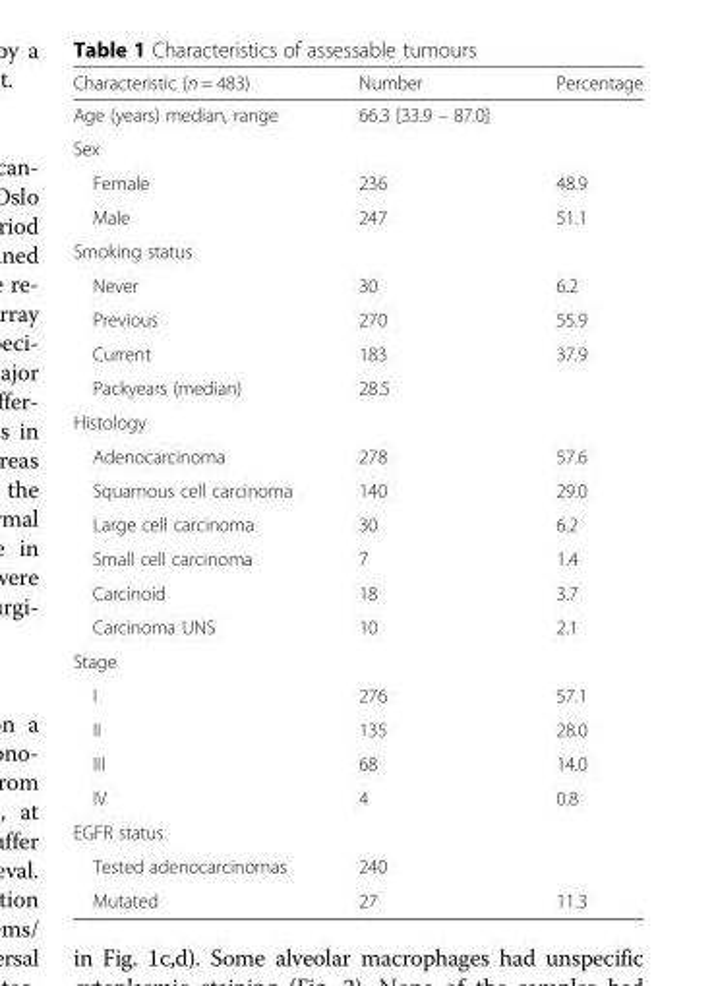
<table><thead><tr><td>Characteristic (n = 483)</td><td>Number</td><td>Percentage</td></tr></thead><tbody><tr><td>Age (years) median, range</td><td>66.3 [33.9 – 87.0]</td><td></td></tr><tr><td colspan="3">Sex</td></tr><tr><td>Female</td><td>236</td><td>48.9</td></tr><tr><td>Male</td><td>247</td><td>51.1</td></tr><tr><td colspan="3">Smoking status</td></tr><tr><td>Never</td><td>30</td><td>6.2</td></tr><tr><td>Previous</td><td>270</td><td>55.9</td></tr><tr><td>Current</td><td>183</td><td>37.9</td></tr><tr><td>Packyears (median)</td><td>28.5</td><td></td></tr><tr><td colspan="3">Histology</td></tr><tr><td>Adenocarcinoma</td><td>278</td><td>57.6</td></tr><tr><td>Squamous cell carcinoma</td><td>140</td><td>29.0</td></tr><tr><td>Large cell carcinoma</td><td>30</td><td>6.2</td></tr><tr><td>Small cell carcinoma</td><td>7</td><td>1.4</td></tr><tr><td>Carcinoid</td><td>18</td><td>3.7</td></tr><tr><td>Carcinoma UNS</td><td>10</td><td>2.1</td></tr><tr><td colspan="3">Stage</td></tr><tr><td>I</td><td>276</td><td>57.1</td></tr><tr><td>II</td><td>135</td><td>28.0</td></tr><tr><td>III</td><td>68</td><td>14.0</td></tr><tr><td>IV</td><td>4</td><td>0.8</td></tr><tr><td colspan="3">EGFR status</td></tr><tr><td>Tested adenocarcinomas</td><td>240</td><td></td></tr><tr><td>Mutated</td><td>27</td><td>11.3</td></tr></tbody></table>